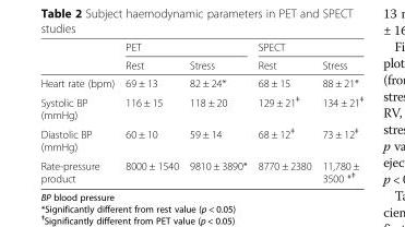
<table><thead><tr><td rowspan="2"></td><td colspan="2">PET</td><td colspan="2">SPECT</td></tr><tr><td>Rest</td><td>Stress</td><td>Rest</td><td>Stress</td></tr></thead><tbody><tr><td>Heart rate (bpm)</td><td>69 ± 13</td><td>82 ± 24*</td><td>68 ± 15</td><td>88 ± 21*</td></tr><tr><td>Systolic BP (mmHg)</td><td>116 ± 15</td><td>118 ± 20</td><td>129 ± 21<sup>ǂ</sup></td><td>134 ± 21<sup>ǂ</sup></td></tr><tr><td>Diastolic BP (mmHg)</td><td>60 ± 10</td><td>59 ± 14</td><td>68 ± 12<sup>ǂ</sup></td><td>73 ± 12<sup>ǂ</sup></td></tr><tr><td>Rate-pressure product</td><td>8000 ± 1540</td><td>9810 ± 3890*</td><td>8770 ± 2380</td><td>11,780 ± 3500 *<sup>ǂ</sup></td></tr></tbody></table>